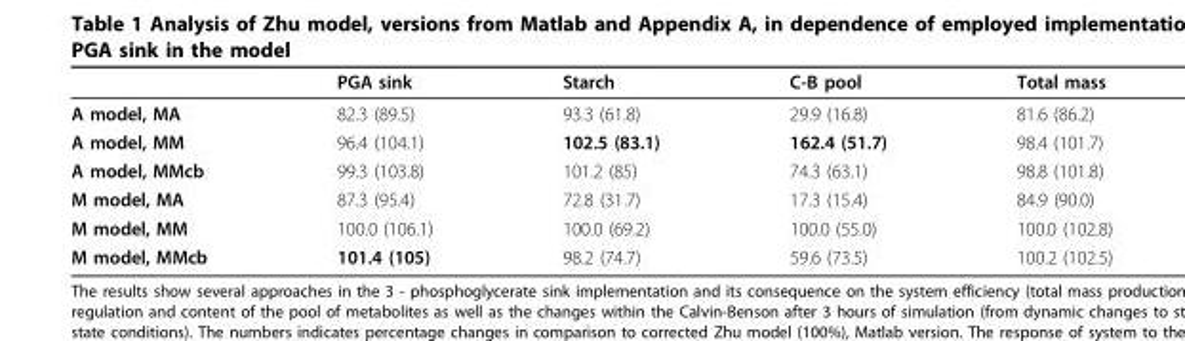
<table><thead><tr><td></td><td>PGA sink</td><td>Starch</td><td>C-B pool</td><td>Total mass</td></tr></thead><tbody><tr><td>A model, MA</td><td>82.3 (89.5)</td><td>93.3 (61.8)</td><td>29.9 (16.8)</td><td>81.6 (86.2)</td></tr><tr><td>A model, MM</td><td>96.4 (104.1)</td><td>102.5 (83.1)</td><td>162.4 (51.7)</td><td>98.4 (101.7)</td></tr><tr><td>A model, MMcb</td><td>99.3 (103.8)</td><td>101.2 (85)</td><td>74.3 (63.1)</td><td>98.8 (101.8)</td></tr><tr><td>M model, MA</td><td>87.3 (95.4)</td><td>72.8 (31.7)</td><td>17.3 (15.4)</td><td>84.9 (90.0)</td></tr><tr><td>M model, MM</td><td>100.0 (106.1)</td><td>100.0 (69.2)</td><td>100.0 (55.0)</td><td>100.0 (102.8)</td></tr><tr><td>M model, MMcb</td><td>101.4 (105)</td><td>98.2 (74.7)</td><td>59.6 (73.5)</td><td>100.2 (102.5)</td></tr></tbody></table>